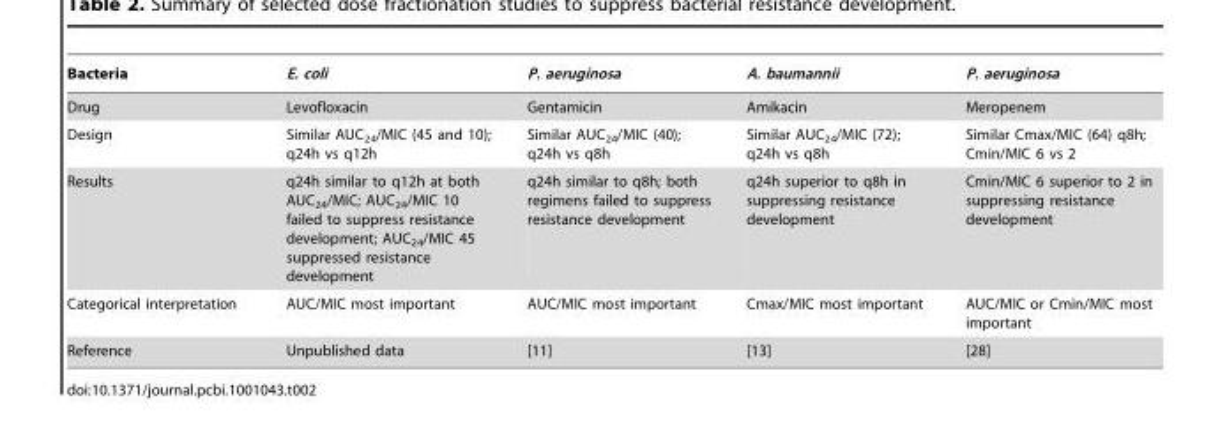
<table><thead><tr><td>Bacteria</td><td>E. coli</td><td>P. aeruginosa</td><td>A. baumannii</td><td>P. aeruginosa</td></tr></thead><tbody><tr><td>Drug</td><td>Levofloxacin</td><td>Gentamicin</td><td>Amikacin</td><td>Meropenem</td></tr><tr><td>Design</td><td>Similar AUC<sub>24</sub>/MIC (45 and 10); q24h vs q12h</td><td>Similar AUC<sub>24</sub>/MIC (40); q24h vs q8h</td><td>Similar AUC<sub>24</sub>/MIC (72); q24h vs q8h</td><td>Similar Cmax/MIC (64) q8h; Cmin/MIC 6 vs 2</td></tr><tr><td>Results</td><td>q24h similar to q12h at both AUC<sub>24</sub>/MIC; AUC<sub>24</sub>/MIC 10 failed to suppress resistance development; AUC<sub>24</sub>/MIC 45 suppressed resistance development</td><td>q24h similar to q8h; both regimens failed to suppress resistance development</td><td>q24h superior to q8h in suppressing resistance development</td><td>Cmin/MIC 6 superior to 2 in suppressing resistance development</td></tr><tr><td>Categorical interpretation</td><td>AUC/MIC most important</td><td>AUC/MIC most important</td><td>Cmax/MIC most important</td><td>AUC/MIC or Cmin/MIC most important</td></tr><tr><td>Reference</td><td>Unpublished data</td><td>[11]</td><td>[13]</td><td>[28]</td></tr></tbody></table>